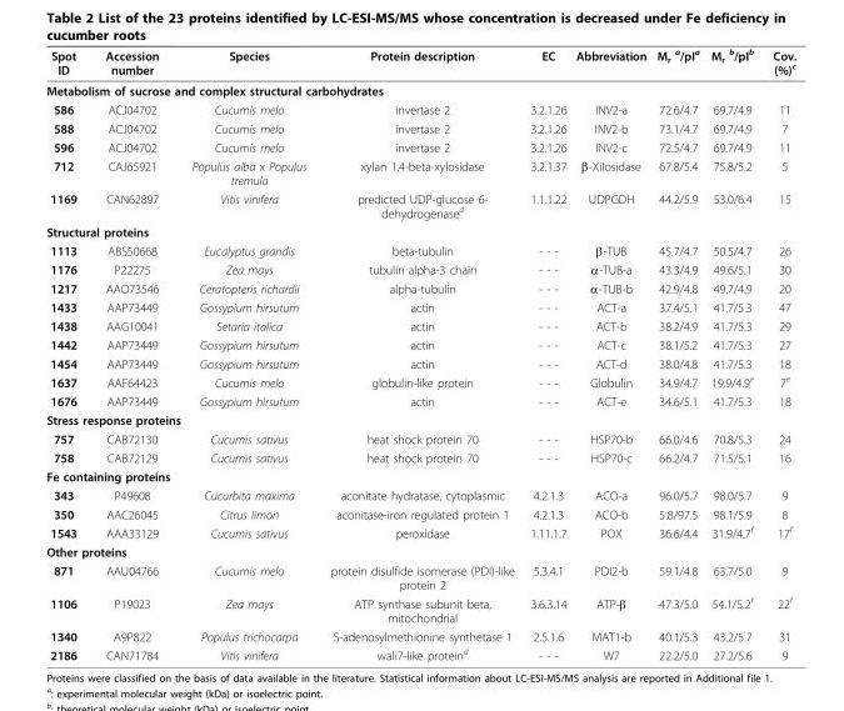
<table><thead><tr><td>Spot ID</td><td>Accession number</td><td>Species</td><td>Protein description</td><td>EC</td><td>Abbreviation</td><td>M<sub>r</sub> <sup>a</sup>/pI<sup>a</sup></td><td>M<sub>r</sub> <sup>b</sup>/pI<sup>b</sup></td><td>Cov. (%)<sup>c</sup></td></tr></thead><tbody><tr><td colspan="9">Metabolism of sucrose and complex structural carbohydrates</td></tr><tr><td>586</td><td>ACJ04702</td><td>Cucumis melo</td><td>invertase 2</td><td>3.2.1.26</td><td>INV2-a</td><td>72.6/4.7</td><td>69.7/4.9</td><td>11</td></tr><tr><td>588</td><td>ACJ04702</td><td>Cucumis melo</td><td>invertase 2</td><td>3.2.1.26</td><td>INV2-b</td><td>73.1/4.7</td><td>69.7/4.9</td><td>7</td></tr><tr><td>596</td><td>ACJ04702</td><td>Cucumis melo</td><td>invertase 2</td><td>3.2.1.26</td><td>INV2-c</td><td>72.5/4.7</td><td>69.7/4.9</td><td>11</td></tr><tr><td>712</td><td>CAJ65921</td><td>Populus alba x Populus tremula</td><td>xylan 1,4-beta-xylosidase</td><td>3.2.1.37</td><td>β-Xilosidase</td><td>67.8/5.4</td><td>75.8/5.2</td><td>5</td></tr><tr><td>1169</td><td>CAN62897</td><td>Vitis vinifera</td><td>predicted UDP-glucose 6- dehydrogenase<sup>d</sup></td><td>1.1.1.22</td><td>UDPGDH</td><td>44.2/5.9</td><td>53.0/6.4</td><td>15</td></tr><tr><td colspan="9">Structural proteins</td></tr><tr><td>1113</td><td>ABS50668</td><td>Eucalyptus grandis</td><td>beta-tubulin</td><td>- - -</td><td>β-TUB</td><td>45.7/4.7</td><td>50.5/4.7</td><td>26</td></tr><tr><td>1176</td><td>P22275</td><td>Zea mays</td><td>tubulin alpha-3 chain</td><td>- - -</td><td>α-TUB-a</td><td>43.3/4.9</td><td>49.6/5.1</td><td>30</td></tr><tr><td>1217</td><td>AAO73546</td><td>Ceratopteris richardii</td><td>alpha-tubulin</td><td>- - -</td><td>α-TUB-b</td><td>42.9/4.8</td><td>49.7/4.9</td><td>20</td></tr><tr><td>1433</td><td>AAP73449</td><td>Gossypium hirsutum</td><td>actin</td><td>- - -</td><td>ACT-a</td><td>37.4/5.1</td><td>41.7/5.3</td><td>47</td></tr><tr><td>1438</td><td>AAG10041</td><td>Setaria italica</td><td>actin</td><td>- - -</td><td>ACT-b</td><td>38.2/4.9</td><td>41.7/5.3</td><td>29</td></tr><tr><td>1442</td><td>AAP73449</td><td>Gossypium hirsutum</td><td>actin</td><td>- - -</td><td>ACT-c</td><td>38.1/5.2</td><td>41.7/5.3</td><td>27</td></tr><tr><td>1454</td><td>AAP73449</td><td>Gossypium hirsutum</td><td>actin</td><td>- - -</td><td>ACT-d</td><td>38.0/4.8</td><td>41.7/5.3</td><td>18</td></tr><tr><td>1637</td><td>AAF64423</td><td>Cucumis melo</td><td>globulin-like protein</td><td>- - -</td><td>Globulin</td><td>34.9/4.7</td><td>19.9/4.9<sup>e</sup></td><td>7<sup>e</sup></td></tr><tr><td>1676</td><td>AAP73449</td><td>Gossypium hirsutum</td><td>actin</td><td>- - -</td><td>ACT-e</td><td>34.6/5.1</td><td>41.7/5.3</td><td>18</td></tr><tr><td colspan="9">Stress response proteins</td></tr><tr><td>757</td><td>CAB72130</td><td>Cucumis sativus</td><td>heat shock protein 70</td><td>- - -</td><td>HSP70-b</td><td>66.0/4.6</td><td>70.8/5.3</td><td>24</td></tr><tr><td>758</td><td>CAB72129</td><td>Cucumis sativus</td><td>heat shock protein 70</td><td>- - -</td><td>HSP70-c</td><td>66.2/4.7</td><td>71.5/5.1</td><td>16</td></tr><tr><td colspan="9">Fe containing proteins</td></tr><tr><td>343</td><td>P49608</td><td>Cucurbita maxima</td><td>aconitate hydratase, cytoplasmic</td><td>4.2.1.3</td><td>ACO-a</td><td>96.0/5.7</td><td>98.0/5.7</td><td>9</td></tr><tr><td>350</td><td>AAC26045</td><td>Citrus limon</td><td>aconitase-iron regulated protein 1</td><td>4.2.1.3</td><td>ACO-b</td><td>5.8/97.5</td><td>98.1/5.9</td><td>8</td></tr><tr><td>1543</td><td>AAA33129</td><td>Cucumis sativus</td><td>peroxidase</td><td>1.11.1.7</td><td>POX</td><td>36.6/4.4</td><td>31.9/4.7<sup>f</sup></td><td>17<sup>f</sup></td></tr><tr><td colspan="9">Other proteins</td></tr><tr><td>871</td><td>AAU04766</td><td>Cucumis melo</td><td>protein disulfide isomerase (PDI)-like protein 2</td><td>5.3.4.1</td><td>PDI2-b</td><td>59.1/4.8</td><td>63.7/5.0</td><td>9</td></tr><tr><td>1106</td><td>P19023</td><td>Zea mays</td><td>ATP synthase subunit beta, mitochondrial</td><td>3.6.3.14</td><td>ATP-β</td><td>47.3/5.0</td><td>54.1/5.2<sup>f</sup></td><td>22<sup>f</sup></td></tr><tr><td>1340</td><td>A9P822</td><td>Populus trichocarpa</td><td>S-adenosylmethionine synthetase 1</td><td>2.5.1.6</td><td>MAT1-b</td><td>40.1/5.3</td><td>43.2/5.7</td><td>31</td></tr><tr><td>2186</td><td>CAN71784</td><td>Vitis vinifera</td><td>wali7-like protein<sup>d</sup></td><td>- - -</td><td>W7</td><td>22.2/5.0</td><td>27.2/5.6</td><td>9</td></tr></tbody></table>